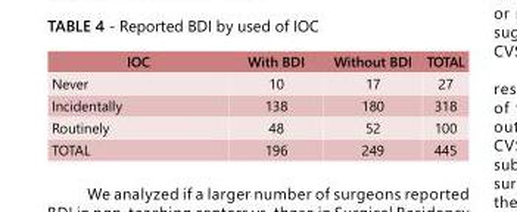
<table><tbody><tr><td>IOC</td><td>With BDI</td><td>Without BDI</td><td>TOTAL</td></tr><tr><td>Never</td><td>10</td><td>17</td><td>27</td></tr><tr><td>Incidentally</td><td>138</td><td>180</td><td>318</td></tr><tr><td>Routinely</td><td>48</td><td>52</td><td>100</td></tr><tr><td>TOTAL</td><td>196</td><td>249</td><td>445</td></tr></tbody></table>